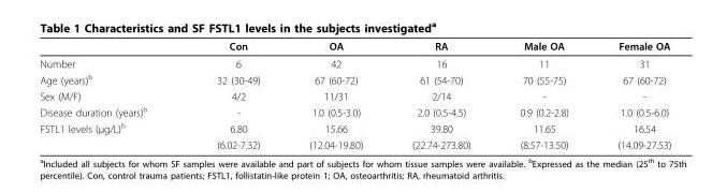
<table><thead><tr><td></td><td>Con</td><td>OA</td><td>RA</td><td>Male OA</td><td>Female OA</td></tr></thead><tbody><tr><td>Number</td><td>6</td><td>42</td><td>16</td><td>11</td><td>31</td></tr><tr><td>Age (years)<sup>b</sup></td><td>32 (30-49)</td><td>67 (60-72)</td><td>61 (54-70)</td><td>70 (55-75)</td><td>67 (60-72)</td></tr><tr><td>Sex (M/F)</td><td>4/2</td><td>11/31</td><td>2/14</td><td>-</td><td>-</td></tr><tr><td>Disease duration (years)<sup>b</sup></td><td>-</td><td>1.0 (0.5-3.0)</td><td>2.0 (0.5-4.5)</td><td>0.9 (0.2-2.8)</td><td>1.0 (0.5-6.0)</td></tr><tr><td rowspan="2">FSTL1 levels (μg/L)<sup>b</sup></td><td>6.80</td><td>15.66</td><td>39.80</td><td>11.65</td><td>16.54</td></tr><tr><td>(6.02-7.32)</td><td>(12.04-19.80)</td><td>(22.74-273.80)</td><td>(8.57-13.50)</td><td>(14.09-27.53)</td></tr></tbody></table>